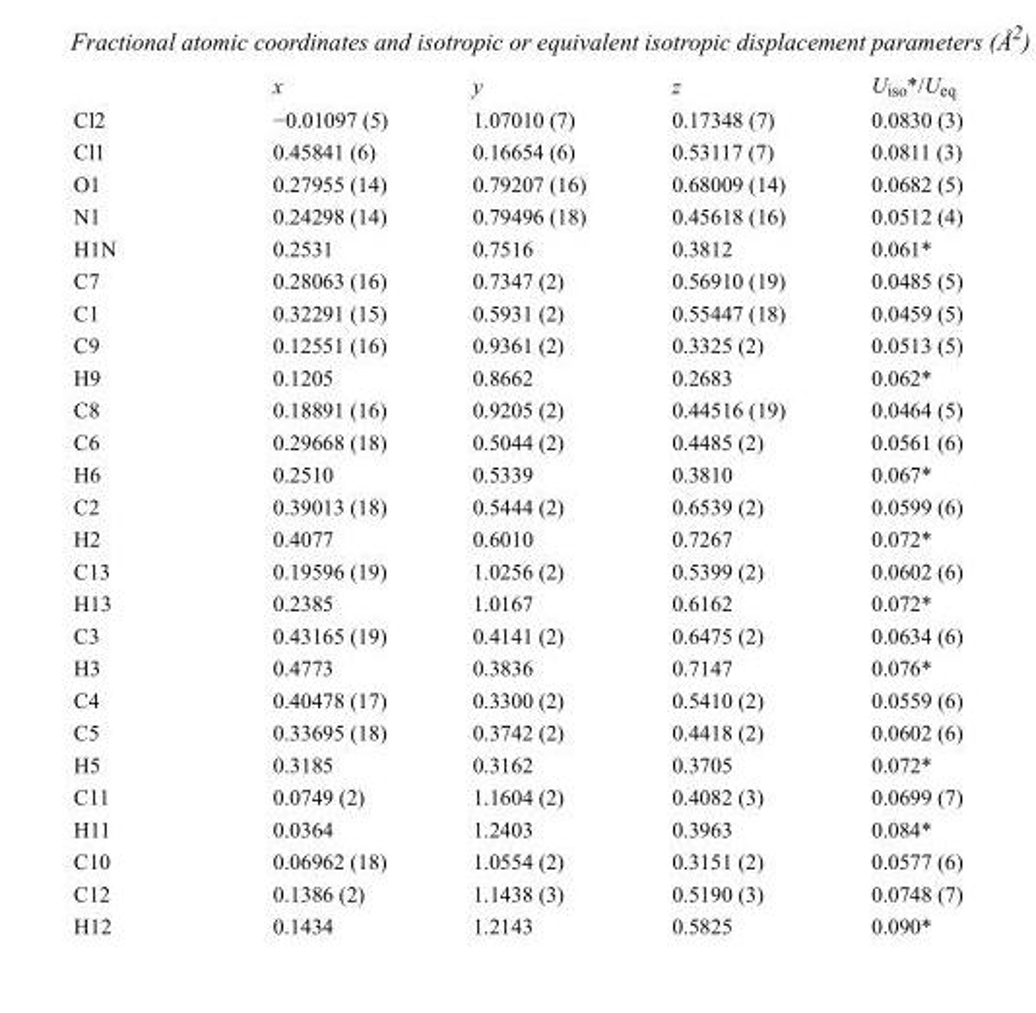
<table><thead><tr><td></td><td>x</td><td>y</td><td>z</td><td>U<sub>iso</sub>*/U<sub>eq</sub></td></tr></thead><tbody><tr><td>Cl2</td><td>−0.01097 (5)</td><td>1.07010 (7)</td><td>0.17348 (7)</td><td>0.0830 (3)</td></tr><tr><td>Cl1</td><td>0.45841 (6)</td><td>0.16654 (6)</td><td>0.53117 (7)</td><td>0.0811 (3)</td></tr><tr><td>O1</td><td>0.27955 (14)</td><td>0.79207 (16)</td><td>0.68009 (14)</td><td>0.0682 (5)</td></tr><tr><td>N1</td><td>0.24298 (14)</td><td>0.79496 (18)</td><td>0.45618 (16)</td><td>0.0512 (4)</td></tr><tr><td>H1N</td><td>0.2531</td><td>0.7516</td><td>0.3812</td><td>0.061*</td></tr><tr><td>C7</td><td>0.28063 (16)</td><td>0.7347 (2)</td><td>0.56910 (19)</td><td>0.0485 (5)</td></tr><tr><td>C1</td><td>0.32291 (15)</td><td>0.5931 (2)</td><td>0.55447 (18)</td><td>0.0459 (5)</td></tr><tr><td>C9</td><td>0.12551 (16)</td><td>0.9361 (2)</td><td>0.3325 (2)</td><td>0.0513 (5)</td></tr><tr><td>H9</td><td>0.1205</td><td>0.8662</td><td>0.2683</td><td>0.062*</td></tr><tr><td>C8</td><td>0.18891 (16)</td><td>0.9205 (2)</td><td>0.44516 (19)</td><td>0.0464 (5)</td></tr><tr><td>C6</td><td>0.29668 (18)</td><td>0.5044 (2)</td><td>0.4485 (2)</td><td>0.0561 (6)</td></tr><tr><td>H6</td><td>0.2510</td><td>0.5339</td><td>0.3810</td><td>0.067*</td></tr><tr><td>C2</td><td>0.39013 (18)</td><td>0.5444 (2)</td><td>0.6539 (2)</td><td>0.0599 (6)</td></tr><tr><td>H2</td><td>0.4077</td><td>0.6010</td><td>0.7267</td><td>0.072*</td></tr><tr><td>C13</td><td>0.19596 (19)</td><td>1.0256 (2)</td><td>0.5399 (2)</td><td>0.0602 (6)</td></tr><tr><td>H13</td><td>0.2385</td><td>1.0167</td><td>0.6162</td><td>0.072*</td></tr><tr><td>C3</td><td>0.43165 (19)</td><td>0.4141 (2)</td><td>0.6475 (2)</td><td>0.0634 (6)</td></tr><tr><td>H3</td><td>0.4773</td><td>0.3836</td><td>0.7147</td><td>0.076*</td></tr><tr><td>C4</td><td>0.40478 (17)</td><td>0.3300 (2)</td><td>0.5410 (2)</td><td>0.0559 (6)</td></tr><tr><td>C5</td><td>0.33695 (18)</td><td>0.3742 (2)</td><td>0.4418 (2)</td><td>0.0602 (6)</td></tr><tr><td>H5</td><td>0.3185</td><td>0.3162</td><td>0.3705</td><td>0.072*</td></tr><tr><td>C11</td><td>0.0749 (2)</td><td>1.1604 (2)</td><td>0.4082 (3)</td><td>0.0699 (7)</td></tr><tr><td>H11</td><td>0.0364</td><td>1.2403</td><td>0.3963</td><td>0.084*</td></tr><tr><td>C10</td><td>0.06962 (18)</td><td>1.0554 (2)</td><td>0.3151 (2)</td><td>0.0577 (6)</td></tr><tr><td>C12</td><td>0.1386 (2)</td><td>1.1438 (3)</td><td>0.5190 (3)</td><td>0.0748 (7)</td></tr><tr><td>H12</td><td>0.1434</td><td>1.2143</td><td>0.5825</td><td>0.090*</td></tr></tbody></table>